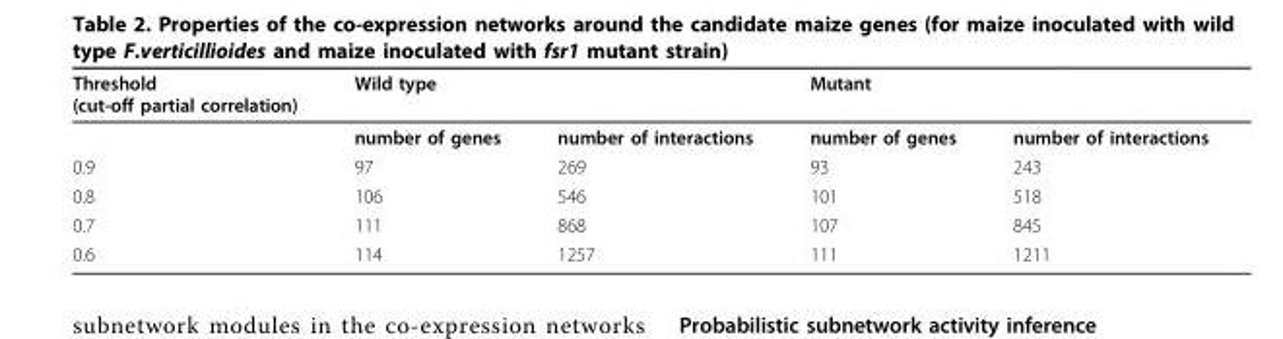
<table><thead><tr><td rowspan="2">Threshold (cut-off partial correlation)</td><td colspan="2">Wild type</td><td colspan="2">Mutant</td></tr><tr><td>number of genes</td><td>number of interactions</td><td>number of genes</td><td>number of interactions</td></tr></thead><tbody><tr><td>0.9</td><td>97</td><td>269</td><td>93</td><td>243</td></tr><tr><td>0.8</td><td>106</td><td>546</td><td>101</td><td>518</td></tr><tr><td>0.7</td><td>111</td><td>868</td><td>107</td><td>845</td></tr><tr><td>0.6</td><td>114</td><td>1257</td><td>111</td><td>1211</td></tr></tbody></table>